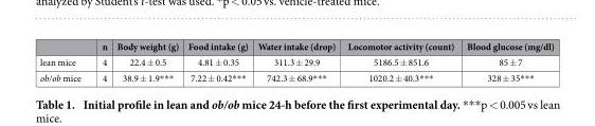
<table><thead><tr><td></td><td>n</td><td>Body weight (g)</td><td>Food intake (g)</td><td>Water intake (drop)</td><td>Locomotor activity (count)</td><td>Blood glucose (mg/dl)</td></tr></thead><tbody><tr><td>lean mice</td><td>4</td><td>22.4 ± 0.5</td><td>4.81 ± 0.35</td><td>311.3 ± 29.9</td><td>5186.5 ± 851.6</td><td>85 ± 7</td></tr><tr><td>ob/ob mice</td><td>4</td><td>38.9 ± 1.9* * *</td><td>7.22 ± 0.42* * *</td><td>742.3 ± 68.9* * *</td><td>1020.2 ± 40.3* * *</td><td>328 ± 35* * *</td></tr></tbody></table>